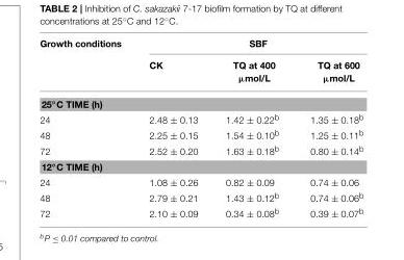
<table><thead><tr><td rowspan="2">Growth conditions</td><td colspan="3">SBF</td></tr><tr><td>CK</td><td>TQ at 400 µmol/L</td><td>TQ at 600 µmol/L</td></tr></thead><tbody><tr><td colspan="4">25◦C TIME (h)</td></tr><tr><td>24</td><td>2.48 ± 0.13</td><td>1.42 ± 0.22<sup>b</sup></td><td>1.35 ± 0.18<sup>b</sup></td></tr><tr><td>48</td><td>2.25 ± 0.15</td><td>1.54 ± 0.10<sup>b</sup></td><td>1.25 ± 0.11<sup>b</sup></td></tr><tr><td>72</td><td>2.52 ± 0.20</td><td>1.63 ± 0.18<sup>b</sup></td><td>0.80 ± 0.14<sup>b</sup></td></tr><tr><td colspan="4">12◦C TIME (h)</td></tr><tr><td>24</td><td>1.08 ± 0.26</td><td>0.82 ± 0.09</td><td>0.74 ± 0.06</td></tr><tr><td>48</td><td>2.79 ± 0.21</td><td>1.43 ± 0.12<sup>b</sup></td><td>0.74 ± 0.06<sup>b</sup></td></tr><tr><td>72</td><td>2.10 ± 0.09</td><td>0.34 ± 0.08<sup>b</sup></td><td>0.39 ± 0.07<sup>b</sup></td></tr></tbody></table>